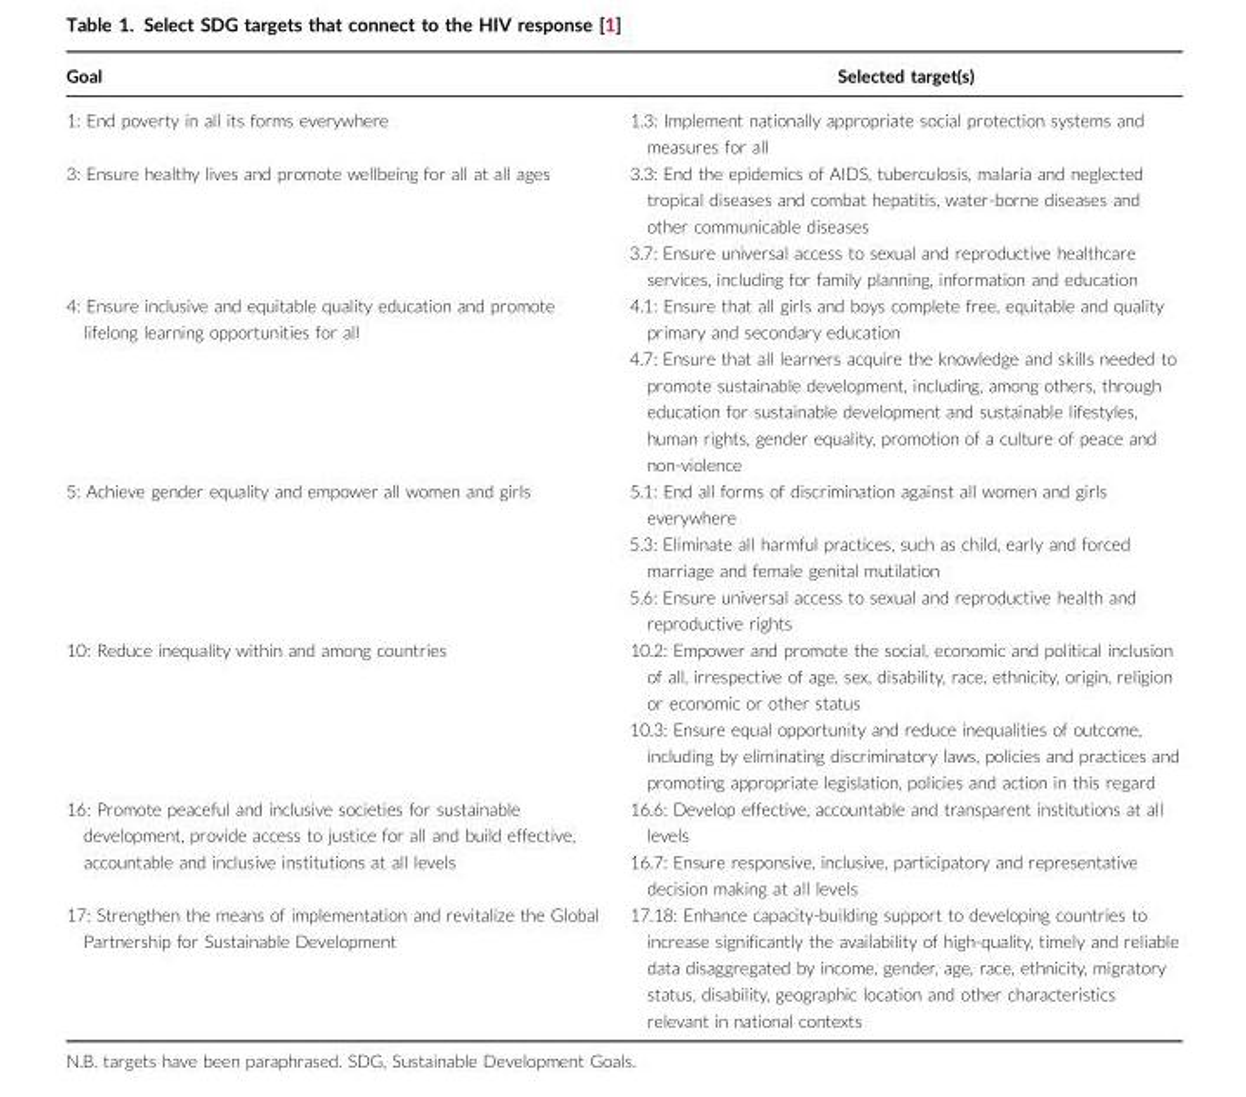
<table><thead><tr><td>Goal</td><td>Selected target(s)</td></tr></thead><tbody><tr><td>1: End poverty in all its forms everywhere</td><td>1.3: Implement nationally appropriate social protection systems and measures for all</td></tr><tr><td>3: Ensure healthy lives and promote wellbeing for all at all ages</td><td>3.3: End the epidemics of AIDS, tuberculosis, malaria and neglected tropical diseases and combat hepatitis, water-borne diseases and other communicable diseases 3.7: Ensure universal access to sexual and reproductive healthcare services, including for family planning, information and education</td></tr><tr><td>4: Ensure inclusive and equitable quality education and promote lifelong learning opportunities for all</td><td>4.1: Ensure that all girls and boys complete free, equitable and quality primary and secondary education 4.7: Ensure that all learners acquire the knowledge and skills needed to promote sustainable development, including, among others, through education for sustainable development and sustainable lifestyles, human rights, gender equality, promotion of a culture of peace and non-violence</td></tr><tr><td>5: Achieve gender equality and empower all women and girls</td><td>5.1: End all forms of discrimination against all women and girls everywhere 5.3: Eliminate all harmful practices, such as child, early and forced marriage and female genital mutilation 5.6: Ensure universal access to sexual and reproductive health and reproductive rights</td></tr><tr><td>10: Reduce inequality within and among countries</td><td>10.2: Empower and promote the social, economic and political inclusion of all, irrespective of age, sex, disability, race, ethnicity, origin, religion or economic or other status 10.3: Ensure equal opportunity and reduce inequalities of outcome, including by eliminating discriminatory laws, policies and practices and promoting appropriate legislation, policies and action in this regard</td></tr><tr><td>16: Promote peaceful and inclusive societies for sustainable development, provide access to justice for all and build effective, accountable and inclusive institutions at all levels</td><td>16.6: Develop effective, accountable and transparent institutions at all levels 16.7: Ensure responsive, inclusive, participatory and representative decision making at all levels</td></tr><tr><td>17: Strengthen the means of implementation and revitalize the Global Partnership for Sustainable Development</td><td>17.18: Enhance capacity-building support to developing countries to increase significantly the availability of high-quality, timely and reliable data disaggregated by income, gender, age, race, ethnicity, migratory status, disability, geographic location and other characteristics relevant in national contexts</td></tr></tbody></table>